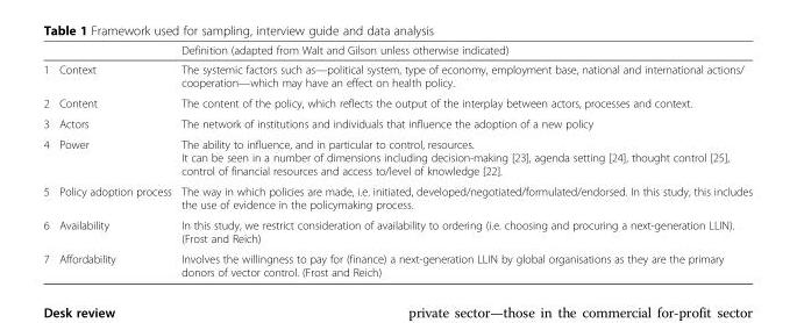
<table><thead><tr><td></td><td></td><td>Definition (adapted from Walt and Gilson unless otherwise indicated)</td></tr></thead><tbody><tr><td>1</td><td>Context</td><td>The systemic factors such as—political system, type of economy, employment base, national and international actions/ cooperation—which may have an effect on health policy.</td></tr><tr><td>2</td><td>Content</td><td>The content of the policy, which reflects the output of the interplay between actors, processes and context.</td></tr><tr><td>3</td><td>Actors</td><td>The network of institutions and individuals that influence the adoption of a new policy</td></tr><tr><td>4</td><td>Power</td><td>The ability to influence, and in particular to control, resources. It can be seen in a number of dimensions including decision-making [23], agenda setting [24], thought control [25], control of financial resources and access to/level of knowledge [22].</td></tr><tr><td>5</td><td>Policy adoption process</td><td>The way in which policies are made, i.e. initiated, developed/negotiated/formulated/endorsed. In this study, this includes the use of evidence in the policymaking process.</td></tr><tr><td>6</td><td>Availability</td><td>In this study, we restrict consideration of availability to ordering (i.e. choosing and procuring a next-generation LLIN). (Frost and Reich)</td></tr><tr><td>7</td><td>Affordability</td><td>Involves the willingness to pay for (finance) a next-generation LLIN by global organisations as they are the primary donors of vector control. (Frost and Reich)</td></tr></tbody></table>